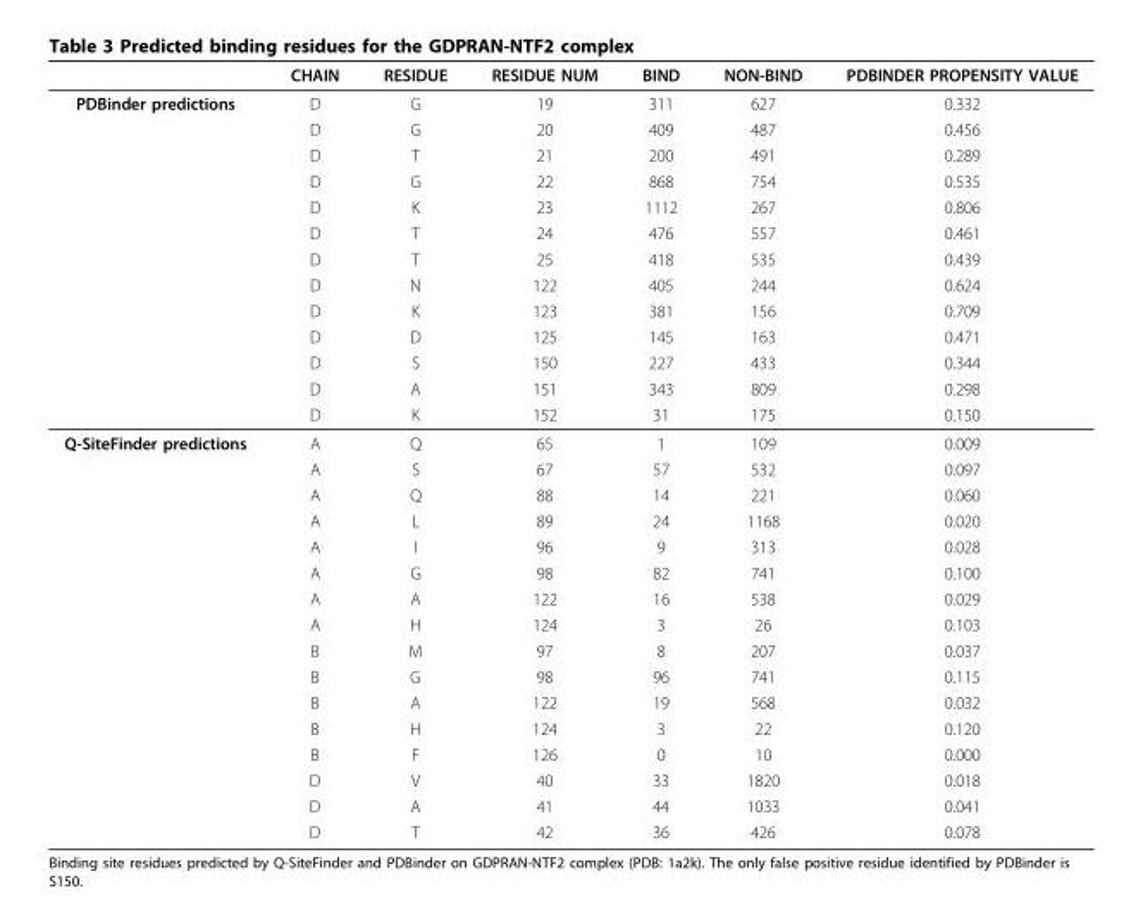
<table><thead><tr><td></td><td>CHAIN</td><td>RESIDUE</td><td>RESIDUE NUM</td><td>BIND</td><td>NON-BIND</td><td>PDBINDER PROPENSITY VALUE</td></tr></thead><tbody><tr><td rowspan="13">PDBinder predictions</td><td>D</td><td>G</td><td>19</td><td>311</td><td>627</td><td>0.332</td></tr><tr><td>D</td><td>G</td><td>20</td><td>409</td><td>487</td><td>0.456</td></tr><tr><td>D</td><td>T</td><td>21</td><td>200</td><td>491</td><td>0.289</td></tr><tr><td>D</td><td>G</td><td>22</td><td>868</td><td>754</td><td>0.535</td></tr><tr><td>D</td><td>K</td><td>23</td><td>1112</td><td>267</td><td>0.806</td></tr><tr><td>D</td><td>T</td><td>24</td><td>476</td><td>557</td><td>0.461</td></tr><tr><td>D</td><td>T</td><td>25</td><td>418</td><td>535</td><td>0.439</td></tr><tr><td>D</td><td>N</td><td>122</td><td>405</td><td>244</td><td>0.624</td></tr><tr><td>D</td><td>K</td><td>123</td><td>381</td><td>156</td><td>0.709</td></tr><tr><td>D</td><td>D</td><td>125</td><td>145</td><td>163</td><td>0.471</td></tr><tr><td>D</td><td>S</td><td>150</td><td>227</td><td>433</td><td>0.344</td></tr><tr><td>D</td><td>A</td><td>151</td><td>343</td><td>809</td><td>0.298</td></tr><tr><td>D</td><td>K</td><td>152</td><td>31</td><td>175</td><td>0.150</td></tr><tr><td rowspan="16">Q-SiteFinder predictions</td><td>A</td><td>Q</td><td>65</td><td>1</td><td>109</td><td>0.009</td></tr><tr><td>A</td><td>S</td><td>67</td><td>57</td><td>532</td><td>0.097</td></tr><tr><td>A</td><td>Q</td><td>88</td><td>14</td><td>221</td><td>0.060</td></tr><tr><td>A</td><td>L</td><td>89</td><td>24</td><td>1168</td><td>0.020</td></tr><tr><td>A</td><td>I</td><td>96</td><td>9</td><td>313</td><td>0.028</td></tr><tr><td>A</td><td>G</td><td>98</td><td>82</td><td>741</td><td>0.100</td></tr><tr><td>A</td><td>A</td><td>122</td><td>16</td><td>538</td><td>0.029</td></tr><tr><td>A</td><td>H</td><td>124</td><td>3</td><td>26</td><td>0.103</td></tr><tr><td>B</td><td>M</td><td>97</td><td>8</td><td>207</td><td>0.037</td></tr><tr><td>B</td><td>G</td><td>98</td><td>96</td><td>741</td><td>0.115</td></tr><tr><td>B</td><td>A</td><td>122</td><td>19</td><td>568</td><td>0.032</td></tr><tr><td>B</td><td>H</td><td>124</td><td>3</td><td>22</td><td>0.120</td></tr><tr><td>B</td><td>F</td><td>126</td><td>0</td><td>10</td><td>0.000</td></tr><tr><td>D</td><td>V</td><td>40</td><td>33</td><td>1820</td><td>0.018</td></tr><tr><td>D</td><td>A</td><td>41</td><td>44</td><td>1033</td><td>0.041</td></tr><tr><td>D</td><td>T</td><td>42</td><td>36</td><td>426</td><td>0.078</td></tr></tbody></table>